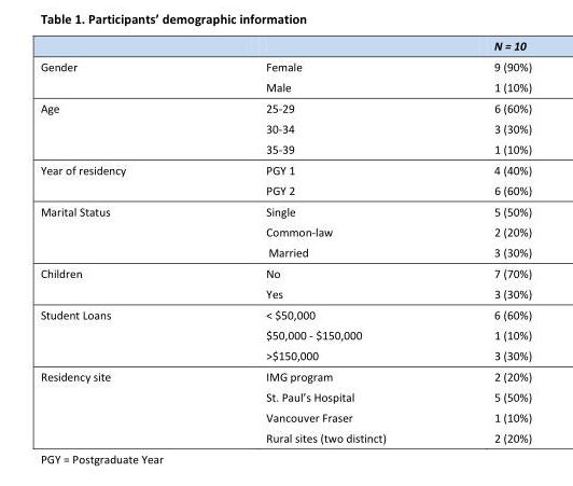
<table><thead><tr><td></td><td></td><td>N = 10</td></tr></thead><tbody><tr><td rowspan="2">Gender</td><td>Female</td><td>9 (90%)</td></tr><tr><td>Male</td><td>1 (10%)</td></tr><tr><td rowspan="3">Age</td><td>25-29</td><td>6 (60%)</td></tr><tr><td>30-34</td><td>3 (30%)</td></tr><tr><td>35-39</td><td>1 (10%)</td></tr><tr><td rowspan="2">Year of residency</td><td>PGY 1</td><td>4 (40%)</td></tr><tr><td>PGY 2</td><td>6 (60%)</td></tr><tr><td rowspan="3">Marital Status</td><td>Single</td><td>5 (50%)</td></tr><tr><td>Common-law</td><td>2 (20%)</td></tr><tr><td>Married</td><td>3 (30%)</td></tr><tr><td rowspan="2">Children</td><td>No</td><td>7 (70%)</td></tr><tr><td>Yes</td><td>3 (30%)</td></tr><tr><td rowspan="3">Student Loans</td><td>&lt; $50,000</td><td>6 (60%)</td></tr><tr><td>$50,000 - $150,000</td><td>1 (10%)</td></tr><tr><td>&gt;$150,000</td><td>3 (30%)</td></tr><tr><td rowspan="4">Residency site</td><td>IMG program</td><td>2 (20%)</td></tr><tr><td>St. Paul’s Hospital</td><td>5 (50%)</td></tr><tr><td>Vancouver Fraser</td><td>1 (10%)</td></tr><tr><td>Rural sites (two distinct)</td><td>2 (20%)</td></tr></tbody></table>